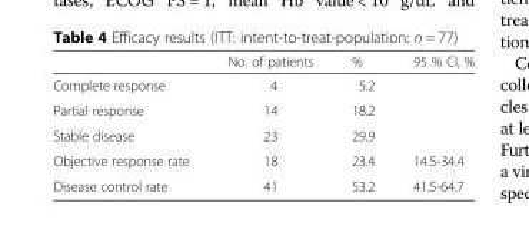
<table><thead><tr><td></td><td>No. of patients</td><td>%</td><td>95 % CI, %</td></tr></thead><tbody><tr><td>Complete response</td><td>4</td><td>5.2</td><td></td></tr><tr><td>Partial response</td><td>14</td><td>18.2</td><td></td></tr><tr><td>Stable disease</td><td>23</td><td>29.9</td><td></td></tr><tr><td>Objective response rate</td><td>18</td><td>23.4</td><td>14.5-34.4</td></tr><tr><td>Disease control rate</td><td>41</td><td>53.2</td><td>41.5-64.7</td></tr></tbody></table>